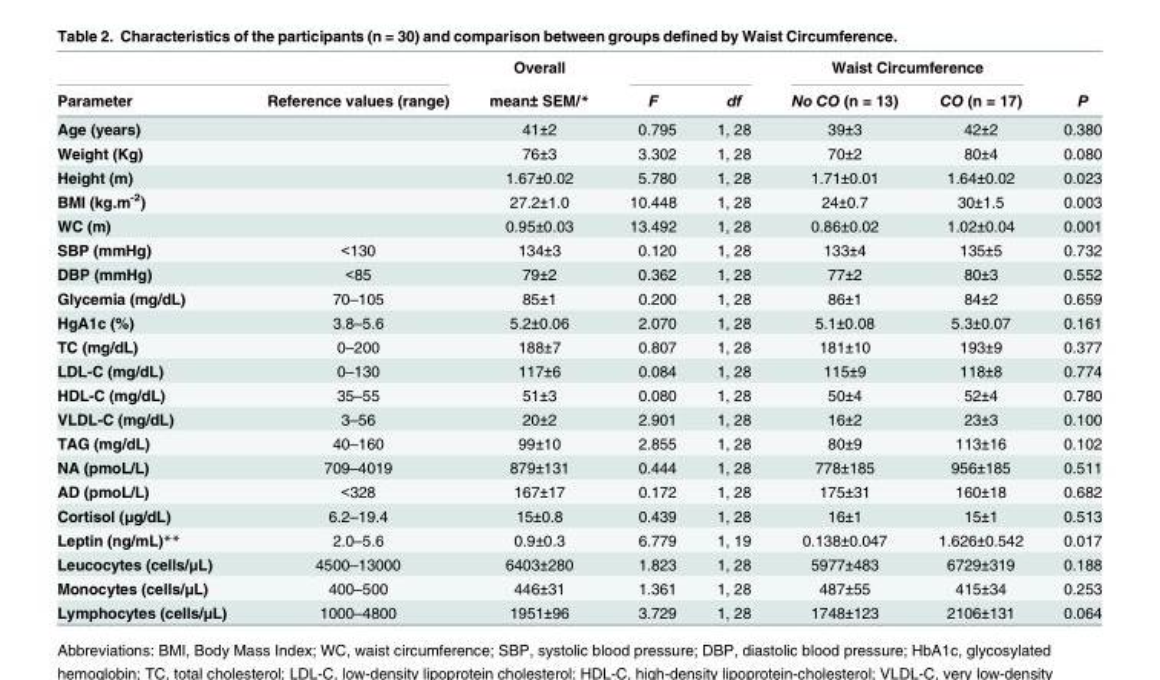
<table><thead><tr><td rowspan="2">Parameter</td><td rowspan="2">Reference values (range)</td><td rowspan="2">Overall mean± SEM/*</td><td rowspan="2">F</td><td rowspan="2">df</td><td colspan="2">Waist Circumference</td><td rowspan="2">P</td></tr><tr><td>No CO (n = 13)</td><td>CO (n = 17)</td></tr></thead><tbody><tr><td>Age (years)</td><td></td><td>41±2</td><td>0.795</td><td>1, 28</td><td>39±3</td><td>42±2</td><td>0.380</td></tr><tr><td>Weight (Kg)</td><td></td><td>76±3</td><td>3.302</td><td>1, 28</td><td>70±2</td><td>80±4</td><td>0.080</td></tr><tr><td>Height (m)</td><td></td><td>1.67±0.02</td><td>5.780</td><td>1, 28</td><td>1.71±0.01</td><td>1.64±0.02</td><td>0.023</td></tr><tr><td>BMI (kg.m<sup>-2</sup>)</td><td></td><td>27.2±1.0</td><td>10.448</td><td>1, 28</td><td>24±0.7</td><td>30±1.5</td><td>0.003</td></tr><tr><td>WC (m)</td><td></td><td>0.95±0.03</td><td>13.492</td><td>1, 28</td><td>0.86±0.02</td><td>1.02±0.04</td><td>0.001</td></tr><tr><td>SBP (mmHg)</td><td>&lt;130</td><td>134±3</td><td>0.120</td><td>1, 28</td><td>133±4</td><td>135±5</td><td>0.732</td></tr><tr><td>DBP (mmHg)</td><td>&lt;85</td><td>79±2</td><td>0.362</td><td>1, 28</td><td>77±2</td><td>80±3</td><td>0.552</td></tr><tr><td>Glycemia (mg/dL)</td><td>70–105</td><td>85±1</td><td>0.200</td><td>1, 28</td><td>86±1</td><td>84±2</td><td>0.659</td></tr><tr><td>HgA1c (%)</td><td>3.8–5.6</td><td>5.2±0.06</td><td>2.070</td><td>1, 28</td><td>5.1±0.08</td><td>5.3±0.07</td><td>0.161</td></tr><tr><td>TC (mg/dL)</td><td>0–200</td><td>188±7</td><td>0.807</td><td>1, 28</td><td>181±10</td><td>193±9</td><td>0.377</td></tr><tr><td>LDL-C (mg/dL)</td><td>0–130</td><td>117±6</td><td>0.084</td><td>1, 28</td><td>115±9</td><td>118±8</td><td>0.774</td></tr><tr><td>HDL-C (mg/dL)</td><td>35–55</td><td>51±3</td><td>0.080</td><td>1, 28</td><td>50±4</td><td>52±4</td><td>0.780</td></tr><tr><td>VLDL-C (mg/dL)</td><td>3–56</td><td>20±2</td><td>2.901</td><td>1, 28</td><td>16±2</td><td>23±3</td><td>0.100</td></tr><tr><td>TAG (mg/dL)</td><td>40–160</td><td>99±10</td><td>2.855</td><td>1, 28</td><td>80±9</td><td>113±16</td><td>0.102</td></tr><tr><td>NA (pmoL/L)</td><td>709–4019</td><td>879±131</td><td>0.444</td><td>1, 28</td><td>778±185</td><td>956±185</td><td>0.511</td></tr><tr><td>AD (pmoL/L)</td><td>&lt;328</td><td>167±17</td><td>0.172</td><td>1, 28</td><td>175±31</td><td>160±18</td><td>0.682</td></tr><tr><td>Cortisol (μg/dL)</td><td>6.2–19.4</td><td>15±0.8</td><td>0.439</td><td>1, 28</td><td>16±1</td><td>15±1</td><td>0.513</td></tr><tr><td>Leptin (ng/mL)**</td><td>2.0–5.6</td><td>0.9±0.3</td><td>6.779</td><td>1, 19</td><td>0.138±0.047</td><td>1.626±0.542</td><td>0.017</td></tr><tr><td>Leucocytes (cells/μL)</td><td>4500–13000</td><td>6403±280</td><td>1.823</td><td>1, 28</td><td>5977±483</td><td>6729±319</td><td>0.188</td></tr><tr><td>Monocytes (cells/μL)</td><td>400–500</td><td>446±31</td><td>1.361</td><td>1, 28</td><td>487±55</td><td>415±34</td><td>0.253</td></tr><tr><td>Lymphocytes (cells/μL)</td><td>1000–4800</td><td>1951±96</td><td>3.729</td><td>1, 28</td><td>1748±123</td><td>2106±131</td><td>0.064</td></tr></tbody></table>